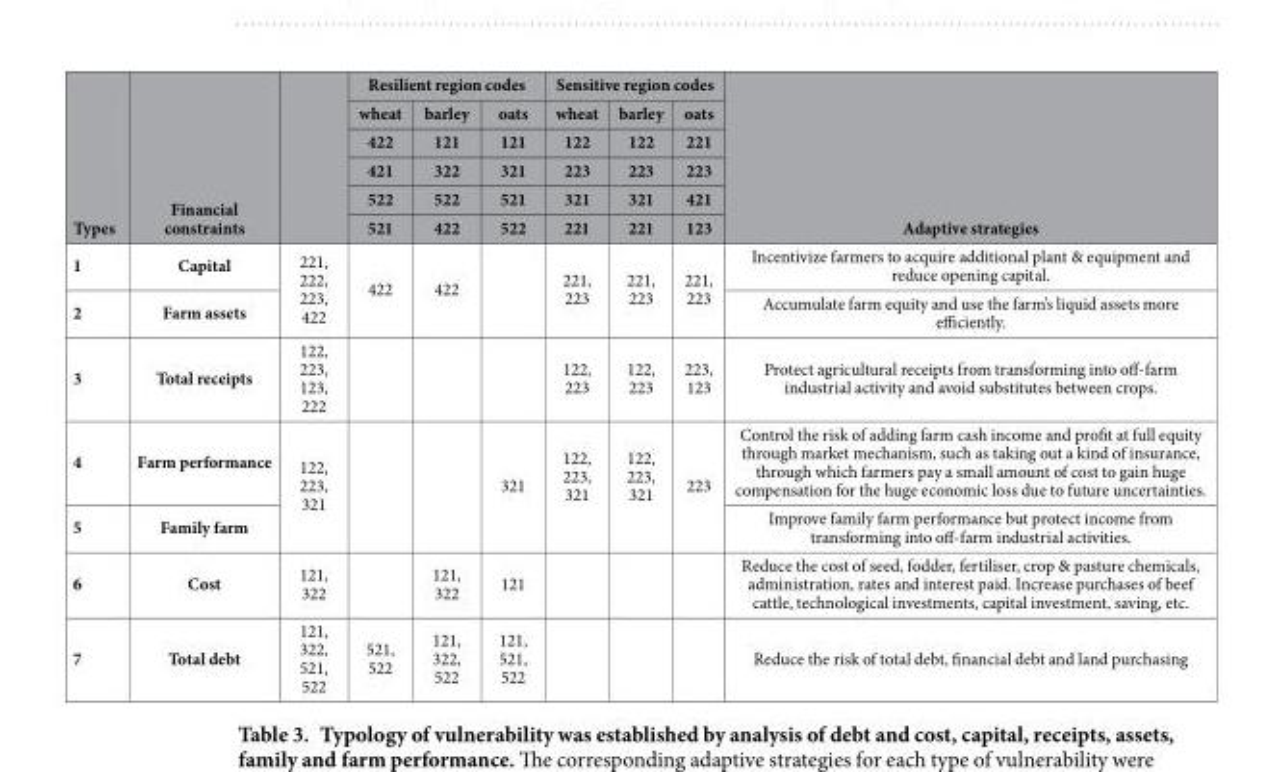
<table><thead><tr><td rowspan="6">Types</td><td rowspan="6">Financial constraints</td><td rowspan="6"></td><td colspan="3">Resilient region codes</td><td colspan="3">Sensitive region codes</td><td rowspan="6">Adaptive strategies</td></tr><tr><td rowspan="5">wheat 422 421 522 521</td><td rowspan="5">barley 121 322 522 422</td><td rowspan="5">oats 121 321 521 522</td><td rowspan="5">wheat 122 223 321 221</td><td rowspan="5">barley 122 223 321 221</td><td rowspan="5">oats 221 223 421 123</td></tr><tr></tr><tr></tr><tr></tr><tr></tr></thead><tbody><tr><td>1</td><td>Capital</td><td rowspan="2">221, 222, 223, 422</td><td rowspan="2">422</td><td rowspan="2">422</td><td rowspan="2"></td><td rowspan="2">221, 223</td><td rowspan="2">221, 223</td><td rowspan="2">221, 223</td><td>Incentivize farmers to acquire additional plant &amp; equipment and reduce opening capital.</td></tr><tr><td>2</td><td>Farm assets</td><td>Accumulate farm equity and use the farm’s liquid assets more efficiently.</td></tr><tr><td>3</td><td>Total receipts</td><td>122, 223, 123, 222</td><td></td><td></td><td></td><td>122, 223</td><td>122, 223</td><td>223, 123</td><td>Protect agricultural receipts from transforming into off-farm industrial activity and avoid substitutes between crops.</td></tr><tr><td>4</td><td>Farm performance</td><td rowspan="2">122, 223, 321</td><td rowspan="2"></td><td rowspan="2"></td><td rowspan="2">321</td><td rowspan="2">122, 223, 321</td><td rowspan="2">122, 223, 321</td><td rowspan="2">223</td><td>Control the risk of adding farm cash income and profit at full equity through market mechanism, such as taking out a kind of insurance, through which farmers pay a small amount of cost to gain huge compensation for the huge economic loss due to future uncertainties.</td></tr><tr><td>5</td><td>Family farm</td><td>Improve family farm performance but protect income from transforming into off-farm industrial activities.</td></tr><tr><td>6</td><td>Cost</td><td>121, 322</td><td></td><td>121, 322</td><td>121</td><td></td><td></td><td></td><td>Reduce the cost of seed, fodder, fertiliser, crop &amp; pasture chemicals, administration, rates and interest paid. Increase purchases of beef cattle, technological investments, capital investment, saving, etc.</td></tr><tr><td>7</td><td>Total debt</td><td>121, 322, 521, 522</td><td>521, 522</td><td>121, 322, 522</td><td>121, 521, 522</td><td></td><td></td><td></td><td>Reduce the risk of total debt, financial debt and land purchasing</td></tr></tbody></table>